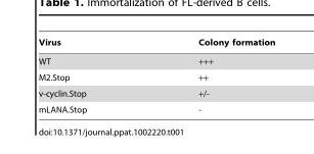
<table><thead><tr><td>Virus</td><td>Colony formation</td></tr></thead><tbody><tr><td>WT</td><td>+++</td></tr><tr><td>M2.Stop</td><td>++</td></tr><tr><td>v-cyclin.Stop</td><td>+/-</td></tr><tr><td>mLANA.Stop</td><td>-</td></tr></tbody></table>